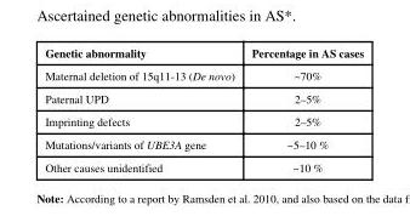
<table><thead><tr><td>Genetic abnormality</td><td>Percentage in AS cases</td></tr></thead><tbody><tr><td>Maternal deletion of 15q11-13 (De novo)</td><td>~70%</td></tr><tr><td>Paternal UPD</td><td>2–5%</td></tr><tr><td>Imprinting defects</td><td>2–5%</td></tr><tr><td>Mutations/variants of UBE3A gene</td><td>~5–10 %</td></tr><tr><td>Other causes unidentified</td><td>~10 %</td></tr></tbody></table>